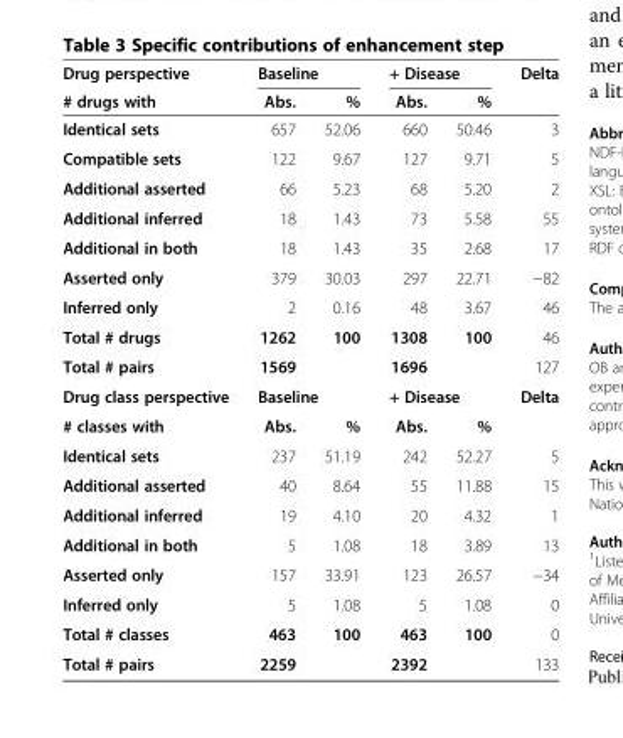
<table><thead><tr><td rowspan="2">Drug perspective # drugs with</td><td colspan="2">Baseline</td><td colspan="2">+ Disease</td><td rowspan="2">Delta</td></tr><tr><td>Abs.</td><td>%</td><td>Abs.</td><td>%</td></tr></thead><tbody><tr><td>Identical sets</td><td>657</td><td>52.06</td><td>660</td><td>50.46</td><td>3</td></tr><tr><td>Compatible sets</td><td>122</td><td>9.67</td><td>127</td><td>9.71</td><td>5</td></tr><tr><td>Additional asserted</td><td>66</td><td>5.23</td><td>68</td><td>5.20</td><td>2</td></tr><tr><td>Additional inferred</td><td>18</td><td>1.43</td><td>73</td><td>5.58</td><td>55</td></tr><tr><td>Additional in both</td><td>18</td><td>1.43</td><td>35</td><td>2.68</td><td>17</td></tr><tr><td>Asserted only</td><td>379</td><td>30.03</td><td>297</td><td>22.71</td><td>−82</td></tr><tr><td>Inferred only</td><td>2</td><td>0.16</td><td>48</td><td>3.67</td><td>46</td></tr><tr><td>Total # drugs</td><td>1262</td><td>100</td><td>1308</td><td>100</td><td>46</td></tr><tr><td>Total # pairs</td><td>1569</td><td></td><td>1696</td><td></td><td>127</td></tr><tr><td>Drug class perspective</td><td colspan="2">Baseline</td><td colspan="2">+ Disease</td><td>Delta</td></tr><tr><td># classes with</td><td>Abs.</td><td>%</td><td>Abs.</td><td>%</td><td></td></tr><tr><td>Identical sets</td><td>237</td><td>51.19</td><td>242</td><td>52.27</td><td>5</td></tr><tr><td>Additional asserted</td><td>40</td><td>8.64</td><td>55</td><td>11.88</td><td>15</td></tr><tr><td>Additional inferred</td><td>19</td><td>4.10</td><td>20</td><td>4.32</td><td>1</td></tr><tr><td>Additional in both</td><td>5</td><td>1.08</td><td>18</td><td>3.89</td><td>13</td></tr><tr><td>Asserted only</td><td>157</td><td>33.91</td><td>123</td><td>26.57</td><td>−34</td></tr><tr><td>Inferred only</td><td>5</td><td>1.08</td><td>5</td><td>1.08</td><td>0</td></tr><tr><td>Total # classes</td><td>463</td><td>100</td><td>463</td><td>100</td><td>0</td></tr><tr><td>Total # pairs</td><td>2259</td><td></td><td>2392</td><td></td><td>133</td></tr></tbody></table>